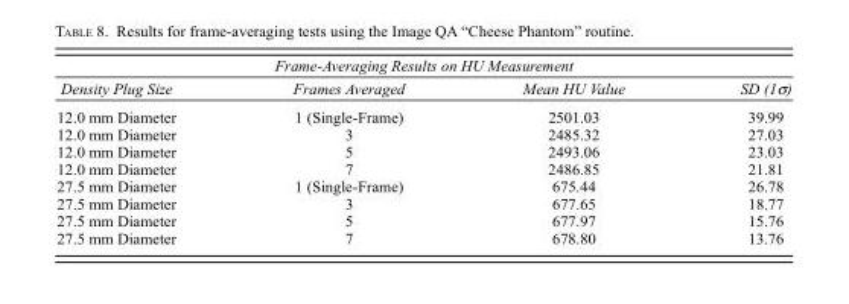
<table><thead><tr><td colspan="4">Frame-Averaging Results on HU Measurement</td></tr><tr><td>Density Plug Size</td><td>Frames Averaged</td><td>Mean HU Value</td><td>SD (1σ)</td></tr></thead><tbody><tr><td>12.0 mm Diameter</td><td>1 (Single-Frame)</td><td>2501.03</td><td>39.99</td></tr><tr><td>12.0 mm Diameter</td><td>3</td><td>2485.32</td><td>27.03</td></tr><tr><td>12.0 mm Diameter</td><td>5</td><td>2493.06</td><td>23.03</td></tr><tr><td>12.0 mm Diameter</td><td>7</td><td>2486.85</td><td>21.81</td></tr><tr><td>27.5 mm Diameter</td><td>1 (Single-Frame)</td><td>675.44</td><td>26.78</td></tr><tr><td>27.5 mm Diameter</td><td>3</td><td>677.65</td><td>18.77</td></tr><tr><td>27.5 mm Diameter</td><td>5</td><td>677.97</td><td>15.76</td></tr><tr><td>27.5 mm Diameter</td><td>7</td><td>678.80</td><td>13.76</td></tr></tbody></table>